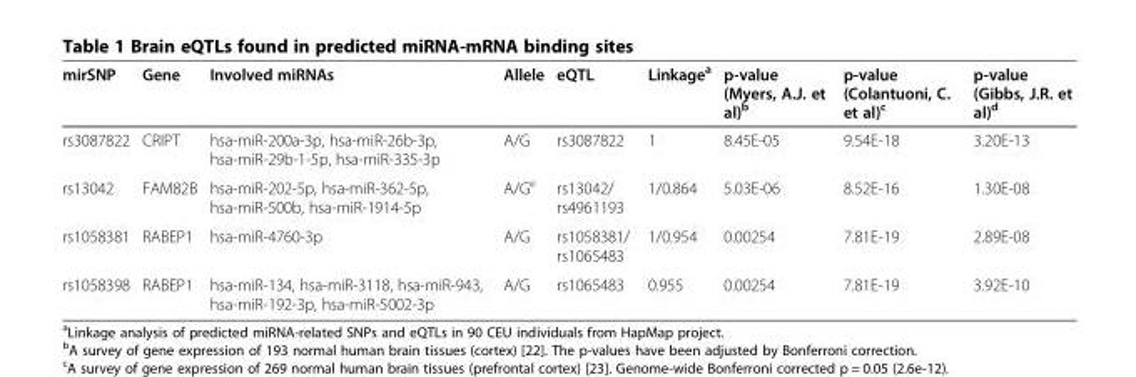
<table><thead><tr><td>mirSNP</td><td>Gene</td><td>Involved miRNAs</td><td>Allele</td><td>eQTL</td><td>Linkage<sup>a</sup></td><td>p-value (Myers, A.J. et al)<sup>b</sup></td><td>p-value (Colantuoni, C. et al)<sup>c</sup></td><td>p-value (Gibbs, J.R. et al)<sup>d</sup></td></tr></thead><tbody><tr><td>rs3087822</td><td>CRIPT</td><td>hsa-miR-200a-3p, hsa-miR-26b-3p, hsa-miR-29b-1-5p, hsa-miR-335-3p</td><td>A/G</td><td>rs3087822</td><td>1</td><td>8.45E-05</td><td>9.54E-18</td><td>3.20E-13</td></tr><tr><td>rs13042</td><td>FAM82B</td><td>hsa-miR-202-5p, hsa-miR-362-5p, hsa-miR-500b, hsa-miR-1914-5p</td><td>A/G<sup>e</sup></td><td>rs13042/ rs4961193</td><td>1/0.864</td><td>5.03E-06</td><td>8.52E-16</td><td>1.30E-08</td></tr><tr><td>rs1058381</td><td>RABEP1</td><td>hsa-miR-4760-3p</td><td>A/G</td><td>rs1058381/ rs1065483</td><td>1/0.954</td><td>0.00254</td><td>7.81E-19</td><td>2.89E-08</td></tr><tr><td>rs1058398</td><td>RABEP1</td><td>hsa-miR-134, hsa-miR-3118, hsa-miR-943, hsa-miR-192-3p, hsa-miR-5002-3p</td><td>A/G</td><td>rs1065483</td><td>0.955</td><td>0.00254</td><td>7.81E-19</td><td>3.92E-10</td></tr></tbody></table>